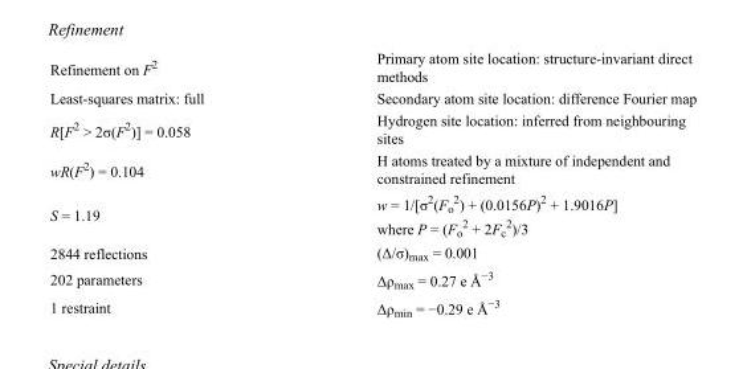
<table><tbody><tr><td>Refinement on F<sup>2</sup></td><td>Primary atom site location: structure-invariant direct methods</td></tr><tr><td>Least-squares matrix: full</td><td>Secondary atom site location: difference Fourier map</td></tr><tr><td>R[F<sup>2</sup> &gt; 2σ(F<sup>2</sup>)] = 0.058</td><td>Hydrogen site location: inferred from neighbouring sites</td></tr><tr><td>wR(F<sup>2</sup>) = 0.104</td><td>H atoms treated by a mixture of independent and constrained refinement</td></tr><tr><td>S = 1.19</td><td>w = 1/[σ<sup>2</sup>(F<sub>o</sub> <sup>2</sup>) + (0.0156P)<sup>2</sup> + 1.9016P] where P = (F<sub>o</sub> <sup>2</sup> + 2F<sub>c</sub> <sup>2</sup>)/3</td></tr><tr><td>2844 reflections</td><td>(Δ/σ)<sub>max</sub> = 0.001</td></tr><tr><td>202 parameters</td><td>Δρ<sub>max</sub> = 0.27 e Å<sup>−3</sup></td></tr><tr><td>1 restraint</td><td>Δρ<sub>min</sub> = −0.29 e Å<sup>−3</sup></td></tr></tbody></table>